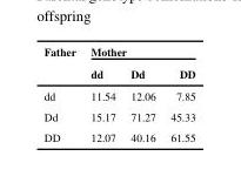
<table><thead><tr><td rowspan="2">Father</td><td colspan="3">Mother</td></tr><tr><td>dd</td><td>Dd</td><td>DD</td></tr></thead><tbody><tr><td>dd</td><td>11.54</td><td>12.06</td><td>7.85</td></tr><tr><td>Dd</td><td>15.17</td><td>71.27</td><td>45.33</td></tr><tr><td>DD</td><td>12.07</td><td>40.16</td><td>61.55</td></tr></tbody></table>